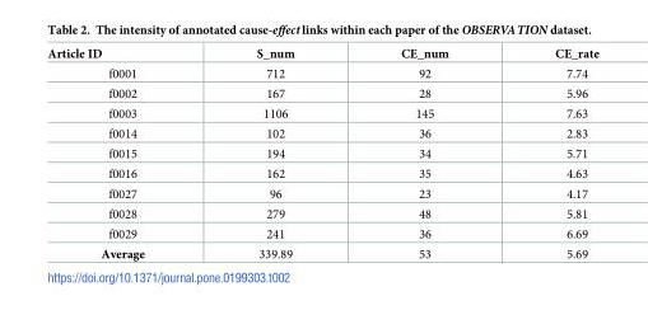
<table><thead><tr><td>Article ID</td><td>S_num</td><td>CE_num</td><td>CE_rate</td></tr></thead><tbody><tr><td>f0001</td><td>712</td><td>92</td><td>7.74</td></tr><tr><td>f0002</td><td>167</td><td>28</td><td>5.96</td></tr><tr><td>f0003</td><td>1106</td><td>145</td><td>7.63</td></tr><tr><td>f0014</td><td>102</td><td>36</td><td>2.83</td></tr><tr><td>f0015</td><td>194</td><td>34</td><td>5.71</td></tr><tr><td>f0016</td><td>162</td><td>35</td><td>4.63</td></tr><tr><td>f0027</td><td>96</td><td>23</td><td>4.17</td></tr><tr><td>f0028</td><td>279</td><td>48</td><td>5.81</td></tr><tr><td>f0029</td><td>241</td><td>36</td><td>6.69</td></tr><tr><td>Average</td><td>339.89</td><td>53</td><td>5.69</td></tr></tbody></table>